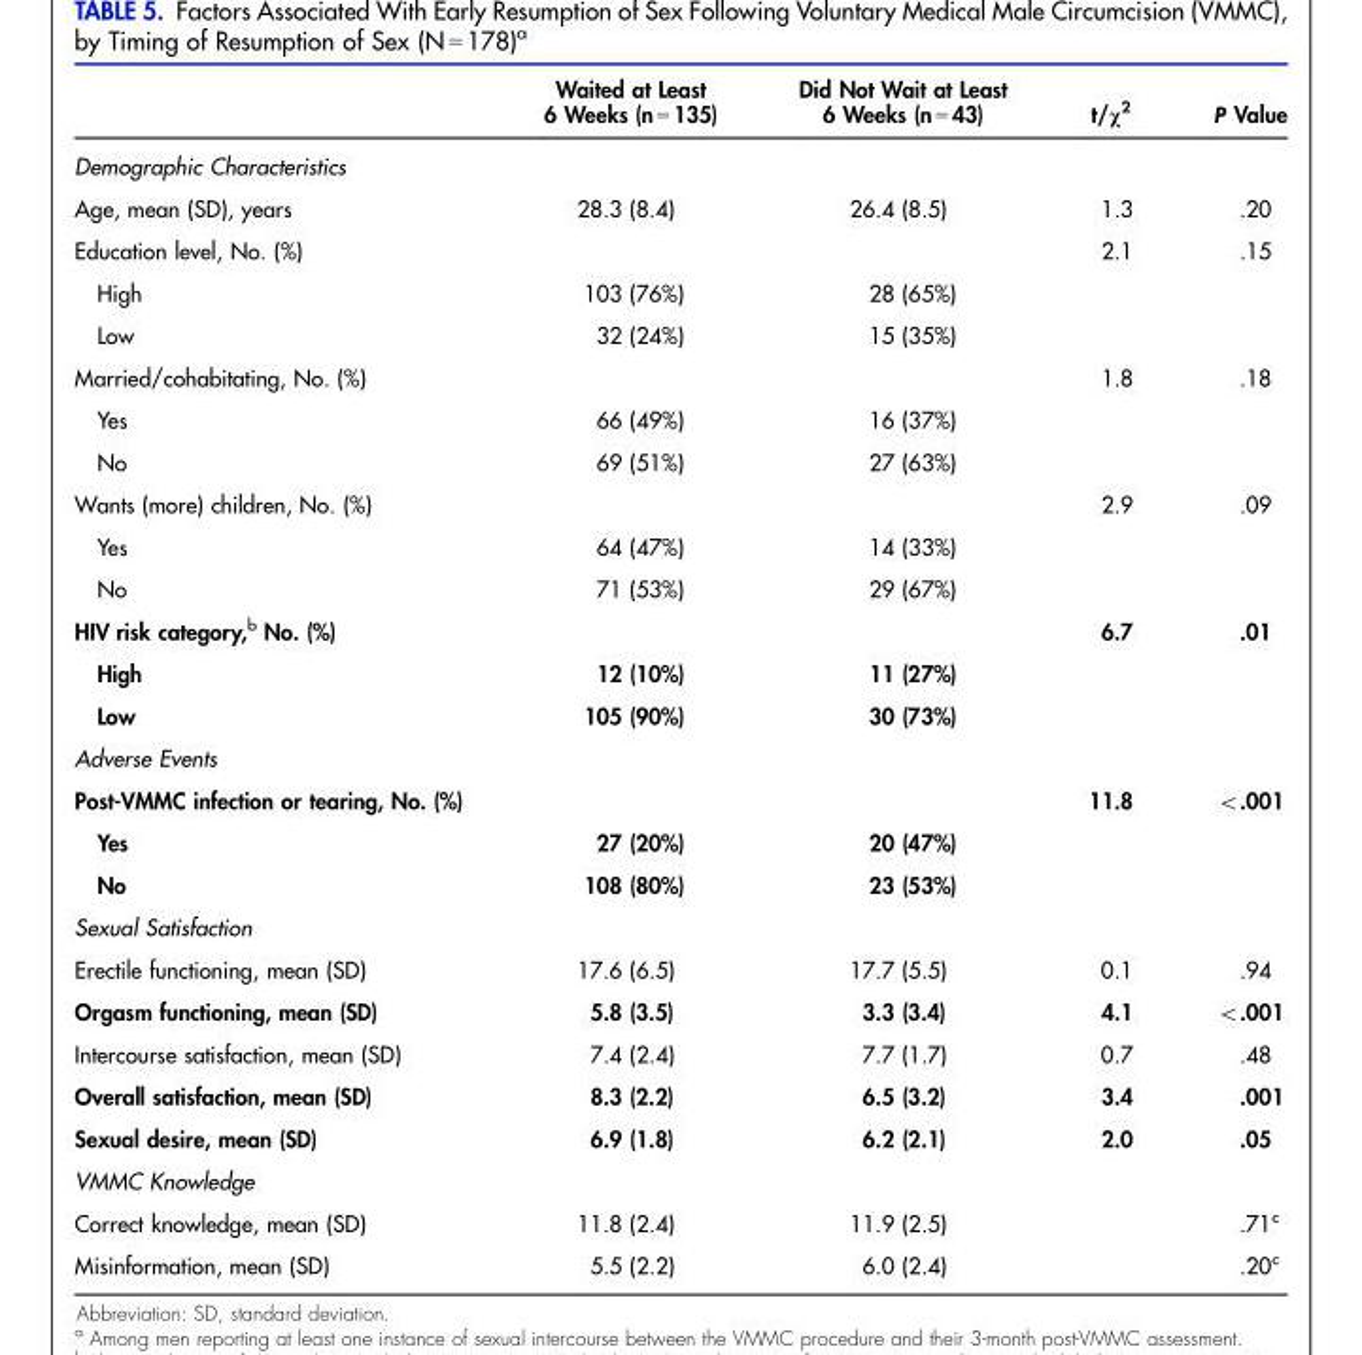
<table><thead><tr><td></td><td>Waited at Least 6 Weeks (n = 135)</td><td>Did Not Wait at Least 6 Weeks (n = 43)</td><td>t/χ<sup>2</sup></td><td>P Value</td></tr></thead><tbody><tr><td colspan="5">Demographic Characteristics</td></tr><tr><td>Age, mean (SD), years</td><td>28.3 (8.4)</td><td>26.4 (8.5)</td><td>1.3</td><td>.20</td></tr><tr><td>Education level, No. (%)</td><td></td><td></td><td>2.1</td><td>.15</td></tr><tr><td>High</td><td>103 (76%)</td><td>28 (65%)</td><td></td><td></td></tr><tr><td>Low</td><td>32 (24%)</td><td>15 (35%)</td><td></td><td></td></tr><tr><td>Married/cohabitating, No. (%)</td><td></td><td></td><td>1.8</td><td>.18</td></tr><tr><td>Yes</td><td>66 (49%)</td><td>16 (37%)</td><td></td><td></td></tr><tr><td>No</td><td>69 (51%)</td><td>27 (63%)</td><td></td><td></td></tr><tr><td>Wants (more) children, No. (%)</td><td></td><td></td><td>2.9</td><td>.09</td></tr><tr><td>Yes</td><td>64 (47%)</td><td>14 (33%)</td><td></td><td></td></tr><tr><td>No</td><td>71 (53%)</td><td>29 (67%)</td><td></td><td></td></tr><tr><td>HIV risk category,<sup>b</sup> No. (%)</td><td></td><td></td><td>6.7</td><td>.01</td></tr><tr><td>High</td><td>12 (10%)</td><td>11 (27%)</td><td></td><td></td></tr><tr><td>Low</td><td>105 (90%)</td><td>30 (73%)</td><td></td><td></td></tr><tr><td colspan="5">Adverse Events</td></tr><tr><td>Post-VMMC infection or tearing, No. (%)</td><td></td><td></td><td>11.8</td><td>&lt;.001</td></tr><tr><td>Yes</td><td>27 (20%)</td><td>20 (47%)</td><td></td><td></td></tr><tr><td>No</td><td>108 (80%)</td><td>23 (53%)</td><td></td><td></td></tr><tr><td colspan="5">Sexual Satisfaction</td></tr><tr><td>Erectile functioning, mean (SD)</td><td>17.6 (6.5)</td><td>17.7 (5.5)</td><td>0.1</td><td>.94</td></tr><tr><td>Orgasm functioning, mean (SD)</td><td>5.8 (3.5)</td><td>3.3 (3.4)</td><td>4.1</td><td>&lt;.001</td></tr><tr><td>Intercourse satisfaction, mean (SD)</td><td>7.4 (2.4)</td><td>7.7 (1.7)</td><td>0.7</td><td>.48</td></tr><tr><td>Overall satisfaction, mean (SD)</td><td>8.3 (2.2)</td><td>6.5 (3.2)</td><td>3.4</td><td>.001</td></tr><tr><td>Sexual desire, mean (SD)</td><td>6.9 (1.8)</td><td>6.2 (2.1)</td><td>2.0</td><td>.05</td></tr><tr><td colspan="5">VMMC Knowledge</td></tr><tr><td>Correct knowledge, mean (SD)</td><td>11.8 (2.4)</td><td>11.9 (2.5)</td><td></td><td>.71<sup>c</sup></td></tr><tr><td>Misinformation, mean (SD)</td><td>5.5 (2.2)</td><td>6.0 (2.4)</td><td></td><td>.20<sup>c</sup></td></tr></tbody></table>